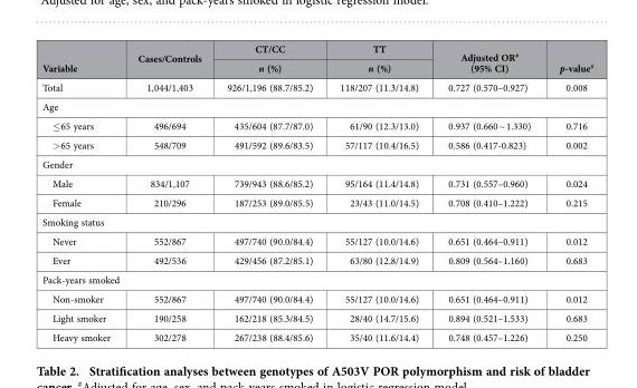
<table><thead><tr><td rowspan="2">Variable</td><td rowspan="2">Cases/Controls</td><td rowspan="2">CT/CC n (%)</td><td rowspan="2">TT n (%)</td><td rowspan="2">Adjusted OR# (95% CI)</td><td rowspan="2">p-value#</td></tr><tr></tr></thead><tbody><tr><td>Total</td><td>1,044/1,403</td><td>926/1,196 (88.7/85.2)</td><td>118/207 (11.3/14.8)</td><td>0.727 (0.570–0.927)</td><td>0.008</td></tr><tr><td colspan="6">Age</td></tr><tr><td>≤ 65 years</td><td>496/694</td><td>435/604 (87.7/87.0)</td><td>61/90 (12.3/13.0)</td><td>0.937 (0.660 ~ 1.330)</td><td>0.716</td></tr><tr><td>&gt; 65 years</td><td>548/709</td><td>491/592 (89.6/83.5)</td><td>57/117 (10.4/16.5)</td><td>0.586 (0.417-0.823)</td><td>0.002</td></tr><tr><td colspan="6">Gender</td></tr><tr><td>Male</td><td>834/1,107</td><td>739/943 (88.6/85.2)</td><td>95/164 (11.4/14.8)</td><td>0.731 (0.557–0.960)</td><td>0.024</td></tr><tr><td>Female</td><td>210/296</td><td>187/253 (89.0/85.5)</td><td>23/43 (11.0/14.5)</td><td>0.708 (0.410–1.222)</td><td>0.215</td></tr><tr><td colspan="6">Smoking status</td></tr><tr><td>Never</td><td>552/867</td><td>497/740 (90.0/84.4)</td><td>55/127 (10.0/14.6)</td><td>0.651 (0.464–0.911)</td><td>0.012</td></tr><tr><td>Ever</td><td>492/536</td><td>429/456 (87.2/85.1)</td><td>63/80 (12.8/14.9)</td><td>0.809 (0.564–1.160)</td><td>0.683</td></tr><tr><td colspan="6">Pack-years smoked</td></tr><tr><td>Non-smoker</td><td>552/867</td><td>497/740 (90.0/84.4)</td><td>55/127 (10.0/14.6)</td><td>0.651 (0.464–0.911)</td><td>0.012</td></tr><tr><td>Light smoker</td><td>190/258</td><td>162/218 (85.3/84.5)</td><td>28/40 (14.7/15.6)</td><td>0.894 (0.521–1.533)</td><td>0.683</td></tr><tr><td>Heavy smoker</td><td>302/278</td><td>267/238 (88.4/85.6)</td><td>35/40 (11.6/14.4)</td><td>0.748 (0.457–1.226)</td><td>0.250</td></tr></tbody></table>